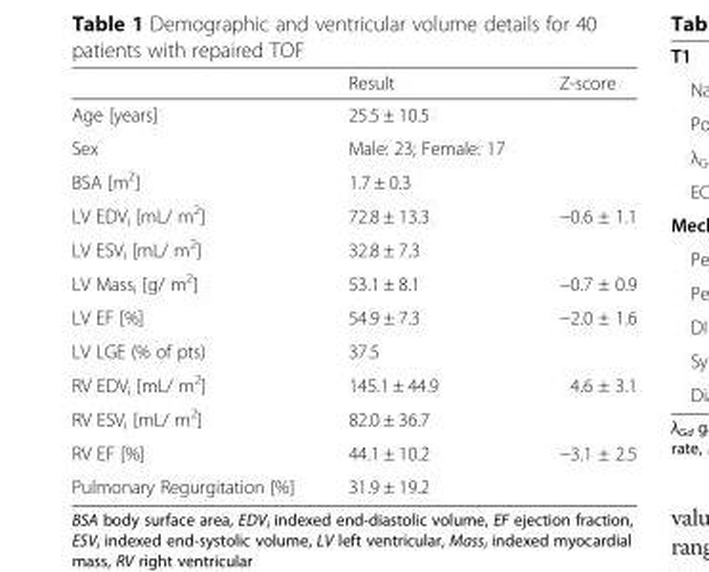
<table><thead><tr><td></td><td>Result</td><td>Z-score</td></tr></thead><tbody><tr><td>Age [years]</td><td>25.5 ± 10.5</td><td></td></tr><tr><td>Sex</td><td>Male: 23; Female: 17</td><td></td></tr><tr><td>BSA [m<sup>2</sup>]</td><td>1.7 ± 0.3</td><td></td></tr><tr><td>LV EDV<sub>i</sub> [mL/ m<sup>2</sup>]</td><td>72.8 ± 13.3</td><td>−0.6 ± 1.1</td></tr><tr><td>LV ESV<sub>i</sub> [mL/ m<sup>2</sup>]</td><td>32.8 ± 7.3</td><td></td></tr><tr><td>LV Mass<sub>i</sub> [g/ m<sup>2</sup>]</td><td>53.1 ± 8.1</td><td>−0.7 ± 0.9</td></tr><tr><td>LV EF [%]</td><td>54.9 ± 7.3</td><td>−2.0 ± 1.6</td></tr><tr><td>LV LGE (% of pts)</td><td>37.5</td><td></td></tr><tr><td>RV EDV<sub>i</sub> [mL/ m<sup>2</sup>]</td><td>145.1 ± 44.9</td><td>4.6 ± 3.1</td></tr><tr><td>RV ESV<sub>i</sub> [mL/ m<sup>2</sup>]</td><td>82.0 ± 36.7</td><td></td></tr><tr><td>RV EF [%]</td><td>44.1 ± 10.2</td><td>−3.1 ± 2.5</td></tr><tr><td>Pulmonary Regurgitation [%]</td><td>31.9 ± 19.2</td><td></td></tr></tbody></table>